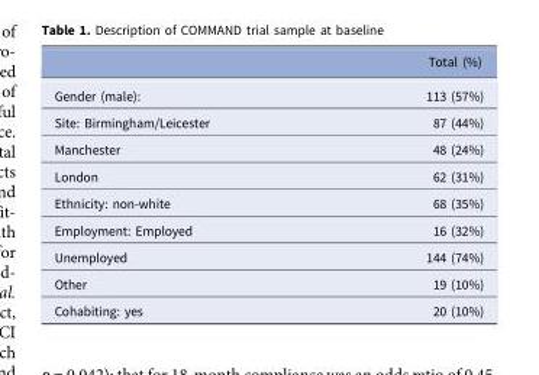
<table><thead><tr><td></td><td>Total (%)</td></tr></thead><tbody><tr><td>Gender (male):</td><td>113 (57%)</td></tr><tr><td>Site: Birmingham/Leicester</td><td>87 (44%)</td></tr><tr><td>Manchester</td><td>48 (24%)</td></tr><tr><td>London</td><td>62 (31%)</td></tr><tr><td>Ethnicity: non-white</td><td>68 (35%)</td></tr><tr><td>Employment: Employed</td><td>16 (32%)</td></tr><tr><td>Unemployed</td><td>144 (74%)</td></tr><tr><td>Other</td><td>19 (10%)</td></tr><tr><td>Cohabiting: yes</td><td>20 (10%)</td></tr></tbody></table>